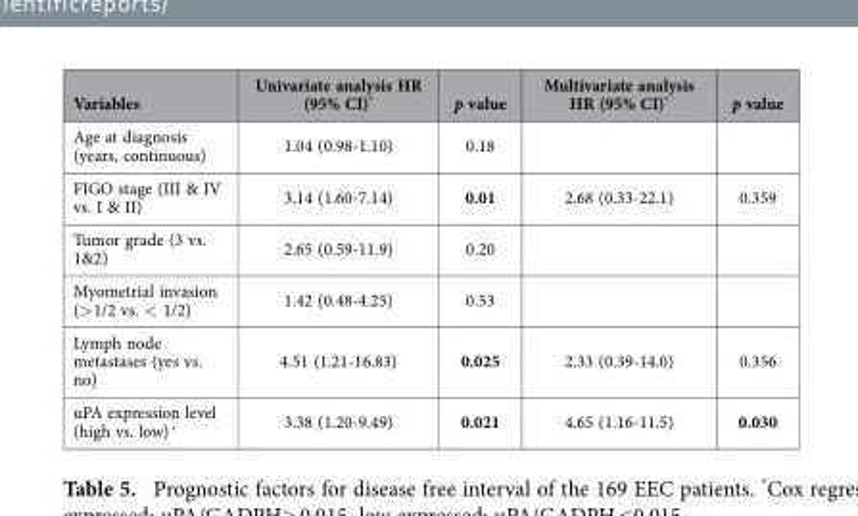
<table><thead><tr><td>Variables</td><td>Univariate analysis HR (95% CI)*</td><td>p value</td><td>Multivariate analysis HR (95% CI)*</td><td>p value</td></tr></thead><tbody><tr><td>Age at diagnosis (years, continuous)</td><td>1.04 (0.98-1.10)</td><td>0.18</td><td></td><td></td></tr><tr><td>FIGO stage (III &amp; IV vs. I &amp; II)</td><td>3.14 (1.60-7.14)</td><td>0.01</td><td>2.68 (0.33-22.1)</td><td>0.359</td></tr><tr><td>Tumor grade (3 vs. 1&amp;2)</td><td>2.65 (0.59-11.9)</td><td>0.20</td><td></td><td></td></tr><tr><td>Myometrial invasion (&gt; 1/2 vs. &lt; 1/2)</td><td>1.42 (0.48-4.25)</td><td>0.53</td><td></td><td></td></tr><tr><td>Lymph node metastases (yes vs. no)</td><td>4.51 (1.21-16.83)</td><td>0.025</td><td>2.33 (0.39-14.0)</td><td>0.356</td></tr><tr><td>uPA expression level (high vs. low)+</td><td>3.38 (1.20-9.49)</td><td>0.021</td><td>4.65 (1.16-11.5)</td><td>0.030</td></tr></tbody></table>